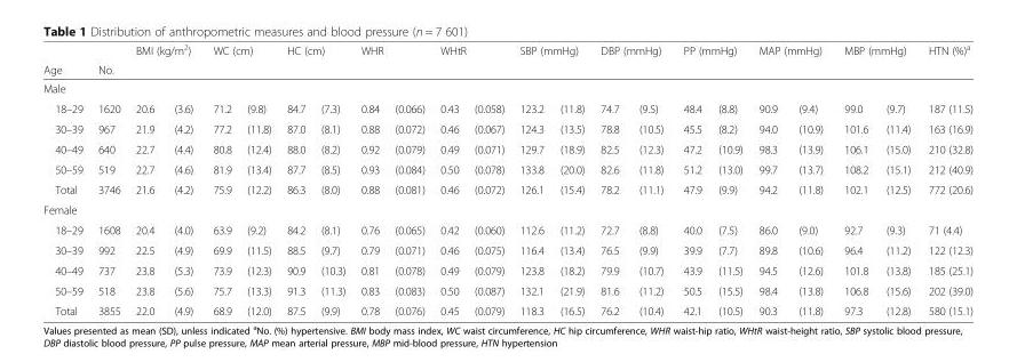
<table><thead><tr><td rowspan="2">Age</td><td rowspan="2">No.</td><td colspan="2">BMI (kg/m<sup>2</sup>)</td><td colspan="2">WC (cm)</td><td colspan="2">HC (cm)</td><td colspan="2">WHR</td><td colspan="2">WHtR</td><td colspan="2">SBP (mmHg)</td><td colspan="2">DBP (mmHg)</td><td colspan="2">PP (mmHg)</td><td colspan="2">MAP (mmHg)</td><td colspan="2">MBP (mmHg)</td><td rowspan="2">HTN (%)<sup>a</sup></td></tr><tr><td></td><td></td><td></td><td></td><td></td><td></td><td></td><td></td><td></td><td></td><td></td><td></td><td></td><td></td><td></td><td></td><td></td><td></td><td></td><td></td></tr></thead><tbody><tr><td colspan="23">Male</td></tr><tr><td>18–29</td><td>1620</td><td>20.6</td><td>(3.6)</td><td>71.2</td><td>(9.8)</td><td>84.7</td><td>(7.3)</td><td>0.84</td><td>(0.066)</td><td>0.43</td><td>(0.058)</td><td>123.2</td><td>(11.8)</td><td>74.7</td><td>(9.5)</td><td>48.4</td><td>(8.8)</td><td>90.9</td><td>(9.4)</td><td>99.0</td><td>(9.7)</td><td>187 (11.5)</td></tr><tr><td>30–39</td><td>967</td><td>21.9</td><td>(4.2)</td><td>77.2</td><td>(11.8)</td><td>87.0</td><td>(8.1)</td><td>0.88</td><td>(0.072)</td><td>0.46</td><td>(0.067)</td><td>124.3</td><td>(13.5)</td><td>78.8</td><td>(10.5)</td><td>45.5</td><td>(8.2)</td><td>94.0</td><td>(10.9)</td><td>101.6</td><td>(11.4)</td><td>163 (16.9)</td></tr><tr><td>40–49</td><td>640</td><td>22.7</td><td>(4.4)</td><td>80.8</td><td>(12.4)</td><td>88.0</td><td>(8.2)</td><td>0.92</td><td>(0.079)</td><td>0.49</td><td>(0.071)</td><td>129.7</td><td>(18.9)</td><td>82.5</td><td>(12.3)</td><td>47.2</td><td>(10.9)</td><td>98.3</td><td>(13.9)</td><td>106.1</td><td>(15.0)</td><td>210 (32.8)</td></tr><tr><td>50–59</td><td>519</td><td>22.7</td><td>(4.6)</td><td>81.9</td><td>(13.4)</td><td>87.7</td><td>(8.5)</td><td>0.93</td><td>(0.084)</td><td>0.50</td><td>(0.078)</td><td>133.8</td><td>(20.0)</td><td>82.6</td><td>(11.8)</td><td>51.2</td><td>(13.0)</td><td>99.7</td><td>(13.7)</td><td>108.2</td><td>(15.1)</td><td>212 (40.9)</td></tr><tr><td>Total</td><td>3746</td><td>21.6</td><td>(4.2)</td><td>75.9</td><td>(12.2)</td><td>86.3</td><td>(8.0)</td><td>0.88</td><td>(0.081)</td><td>0.46</td><td>(0.072)</td><td>126.1</td><td>(15.4)</td><td>78.2</td><td>(11.1)</td><td>47.9</td><td>(9.9)</td><td>94.2</td><td>(11.8)</td><td>102.1</td><td>(12.5)</td><td>772 (20.6)</td></tr><tr><td colspan="23">Female</td></tr><tr><td>18–29</td><td>1608</td><td>20.4</td><td>(4.0)</td><td>63.9</td><td>(9.2)</td><td>84.2</td><td>(8.1)</td><td>0.76</td><td>(0.065)</td><td>0.42</td><td>(0.060)</td><td>112.6</td><td>(11.2)</td><td>72.7</td><td>(8.8)</td><td>40.0</td><td>(7.5)</td><td>86.0</td><td>(9.0)</td><td>92.7</td><td>(9.3)</td><td>71 (4.4)</td></tr><tr><td>30–39</td><td>992</td><td>22.5</td><td>(4.9)</td><td>69.9</td><td>(11.5)</td><td>88.5</td><td>(9.7)</td><td>0.79</td><td>(0.071)</td><td>0.46</td><td>(0.075)</td><td>116.4</td><td>(13.4)</td><td>76.5</td><td>(9.9)</td><td>39.9</td><td>(7.7)</td><td>89.8</td><td>(10.6)</td><td>96.4</td><td>(11.2)</td><td>122 (12.3)</td></tr><tr><td>40–49</td><td>737</td><td>23.8</td><td>(5.3)</td><td>73.9</td><td>(12.3)</td><td>90.9</td><td>(10.3)</td><td>0.81</td><td>(0.078)</td><td>0.49</td><td>(0.079)</td><td>123.8</td><td>(18.2)</td><td>79.9</td><td>(10.7)</td><td>43.9</td><td>(11.5)</td><td>94.5</td><td>(12.6)</td><td>101.8</td><td>(13.8)</td><td>185 (25.1)</td></tr><tr><td>50–59</td><td>518</td><td>23.8</td><td>(5.6)</td><td>75.7</td><td>(13.3)</td><td>91.3</td><td>(11.3)</td><td>0.83</td><td>(0.083)</td><td>0.50</td><td>(0.087)</td><td>132.1</td><td>(21.9)</td><td>81.6</td><td>(11.2)</td><td>50.5</td><td>(15.5)</td><td>98.4</td><td>(13.8)</td><td>106.8</td><td>(15.6)</td><td>202 (39.0)</td></tr><tr><td>Total</td><td>3855</td><td>22.0</td><td>(4.9)</td><td>68.9</td><td>(12.0)</td><td>87.5</td><td>(9.9)</td><td>0.78</td><td>(0.076)</td><td>0.45</td><td>(0.079)</td><td>118.3</td><td>(16.5)</td><td>76.2</td><td>(10.4)</td><td>42.1</td><td>(10.5)</td><td>90.3</td><td>(11.8)</td><td>97.3</td><td>(12.8)</td><td>580 (15.1)</td></tr></tbody></table>